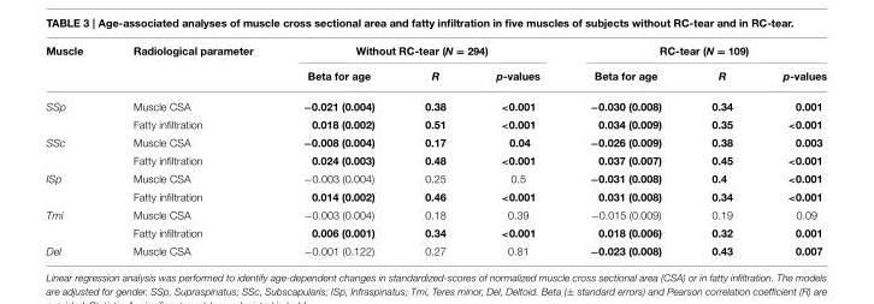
<table><thead><tr><td rowspan="2">Muscle</td><td rowspan="2">Radiological parameter</td><td colspan="3">Without RC-tear (N = 294)</td><td colspan="3">RC-tear (N = 109)</td></tr><tr><td>Beta for age</td><td>R</td><td>p-values</td><td>Beta for age</td><td>R</td><td>p-values</td></tr></thead><tbody><tr><td rowspan="2">SSp</td><td>Muscle CSA</td><td>−0.021 (0.004)</td><td>0.38</td><td>&lt;0.001</td><td>−0.030 (0.008)</td><td>0.34</td><td>0.001</td></tr><tr><td>Fatty infiltration</td><td>0.018 (0.002)</td><td>0.51</td><td>&lt;0.001</td><td>0.034 (0.009)</td><td>0.35</td><td>&lt;0.001</td></tr><tr><td rowspan="2">SSc</td><td>Muscle CSA</td><td>−0.008 (0.004)</td><td>0.17</td><td>0.04</td><td>−0.026 (0.009)</td><td>0.38</td><td>0.003</td></tr><tr><td>Fatty infiltration</td><td>0.024 (0.003)</td><td>0.48</td><td>&lt;0.001</td><td>0.037 (0.007)</td><td>0.45</td><td>&lt;0.001</td></tr><tr><td rowspan="2">ISp</td><td>Muscle CSA</td><td>−0.003 (0.004)</td><td>0.25</td><td>0.5</td><td>−0.031 (0.008)</td><td>0.4</td><td>&lt;0.001</td></tr><tr><td>Fatty infiltration</td><td>0.014 (0.002)</td><td>0.46</td><td>&lt;0.001</td><td>0.031 (0.008)</td><td>0.34</td><td>&lt;0.001</td></tr><tr><td rowspan="2">Tmi</td><td>Muscle CSA</td><td>−0.003 (0.004)</td><td>0.18</td><td>0.39</td><td>−0.015 (0.009)</td><td>0.19</td><td>0.09</td></tr><tr><td>Fatty infiltration</td><td>0.006 (0.001)</td><td>0.34</td><td>&lt;0.001</td><td>0.018 (0.006)</td><td>0.32</td><td>0.001</td></tr><tr><td>Del</td><td>Muscle CSA</td><td>−0.001 (0.122)</td><td>0.27</td><td>0.81</td><td>−0.023 (0.008)</td><td>0.43</td><td>0.007</td></tr></tbody></table>